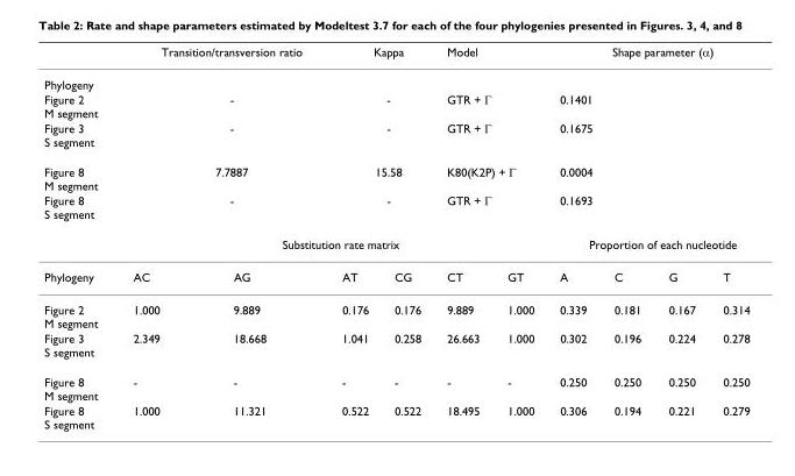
<table><thead><tr><td rowspan="2">Phylogeny</td><td colspan="2">Transition/transversion ratio</td><td colspan="2">Kappa</td><td colspan="2">Model</td><td colspan="4">Shape parameter (α)</td></tr><tr><td></td><td></td><td></td><td></td><td></td><td></td><td></td><td></td><td></td><td></td></tr></thead><tbody><tr><td>Figure 2 M segment</td><td colspan="2">-</td><td colspan="2">-</td><td colspan="2">GTR + Γ</td><td colspan="4">0.1401</td></tr><tr><td>Figure 3 S segment</td><td colspan="2">-</td><td colspan="2">-</td><td colspan="2">GTR + Γ</td><td colspan="4">0.1675</td></tr><tr><td>Figure 8 M segment</td><td colspan="2">7.7887</td><td colspan="2">15.58</td><td colspan="2">K80(K2P) + Γ</td><td colspan="4">0.0004</td></tr><tr><td rowspan="2">Figure 8 S segment</td><td colspan="2">-</td><td colspan="2">-</td><td colspan="2">GTR + Γ</td><td colspan="4">0.1693</td></tr><tr><td colspan="6">Substitution rate matrix</td><td colspan="4">Proportion of each nucleotide</td></tr><tr><td>Phylogeny</td><td>AC</td><td>AG</td><td>AT</td><td>CG</td><td>CT</td><td>GT</td><td>A</td><td>C</td><td>G</td><td>T</td></tr><tr><td>Figure 2 M segment</td><td>1.000</td><td>9.889</td><td>0.176</td><td>0.176</td><td>9.889</td><td>1.000</td><td>0.339</td><td>0.181</td><td>0.167</td><td>0.314</td></tr><tr><td>Figure 3 S segment</td><td>2.349</td><td>18.668</td><td>1.041</td><td>0.258</td><td>26.663</td><td>1.000</td><td>0.302</td><td>0.196</td><td>0.224</td><td>0.278</td></tr><tr><td>Figure 8 M segment</td><td>-</td><td>-</td><td>-</td><td>-</td><td>-</td><td>-</td><td>0.250</td><td>0.250</td><td>0.250</td><td>0.250</td></tr><tr><td>Figure 8 S segment</td><td>1.000</td><td>11.321</td><td>0.522</td><td>0.522</td><td>18.495</td><td>1.000</td><td>0.306</td><td>0.194</td><td>0.221</td><td>0.279</td></tr></tbody></table>